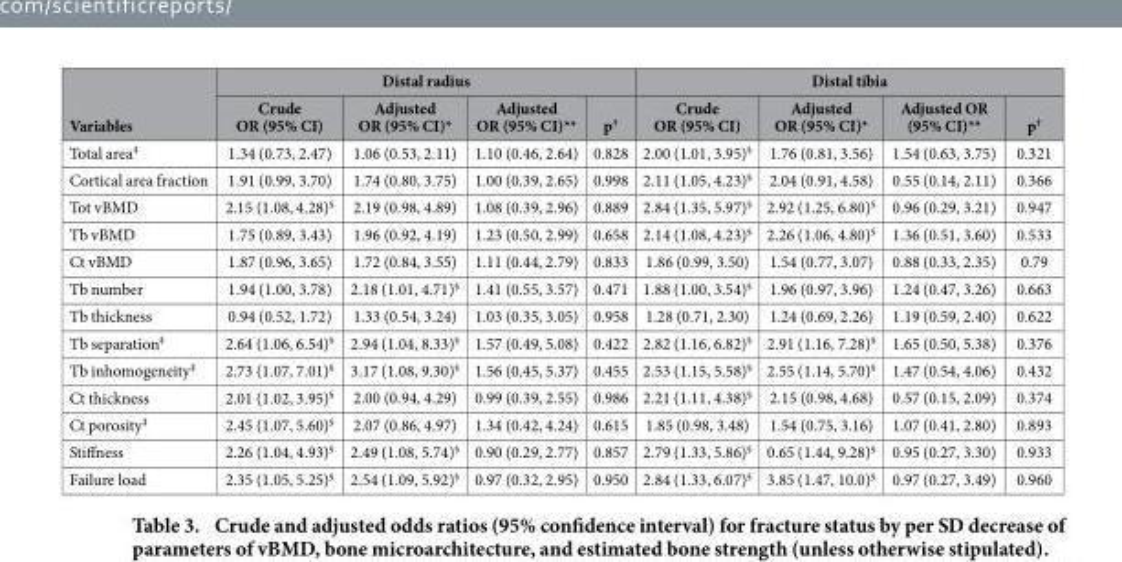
<table><thead><tr><td rowspan="2">Variables</td><td colspan="4">Distal radius</td><td colspan="4">Distal tibia</td></tr><tr><td>Crude OR (95% CI)</td><td>Adjusted OR (95% CI)*</td><td>Adjusted OR (95% CI)**</td><td>p†</td><td>Crude OR (95% CI)</td><td>Adjusted OR (95% CI)*</td><td>Adjusted OR (95% CI)**</td><td>p†</td></tr></thead><tbody><tr><td>Total area‡</td><td>1.34 (0.73, 2.47)</td><td>1.06 (0.53, 2.11)</td><td>1.10 (0.46, 2.64)</td><td>0.828</td><td>2.00 (1.01, 3.95)<sup>§</sup></td><td>1.76 (0.81, 3.56)</td><td>1.54 (0.63, 3.75)</td><td>0.321</td></tr><tr><td>Cortical area fraction</td><td>1.91 (0.99, 3.70)</td><td>1.74 (0.80, 3.75)</td><td>1.00 (0.39, 2.65)</td><td>0.998</td><td>2.11 (1.05, 4.23)<sup>§</sup></td><td>2.04 (0.91, 4.58)</td><td>0.55 (0.14, 2.11)</td><td>0.366</td></tr><tr><td>Tot vBMD</td><td>2.15 (1.08, 4.28)<sup>§</sup></td><td>2.19 (0.98, 4.89)</td><td>1.08 (0.39, 2.96)</td><td>0.889</td><td>2.84 (1.35, 5.97)<sup>§</sup></td><td>2.92 (1.25, 6.80)<sup>§</sup></td><td>0.96 (0.29, 3.21)</td><td>0.947</td></tr><tr><td>Tb vBMD</td><td>1.75 (0.89, 3.43)</td><td>1.96 (0.92, 4.19)</td><td>1.23 (0.50, 2.99)</td><td>0.658</td><td>2.14 (1.08, 4.23)<sup>§</sup></td><td>2.26 (1.06, 4.80)<sup>§</sup></td><td>1.36 (0.51, 3.60)</td><td>0.533</td></tr><tr><td>Ct vBMD</td><td>1.87 (0.96, 3.65)</td><td>1.72 (0.84, 3.55)</td><td>1.11 (0.44, 2.79)</td><td>0.833</td><td>1.86 (0.99, 3.50)</td><td>1.54 (0.77, 3.07)</td><td>0.88 (0.33, 2.35)</td><td>0.79</td></tr><tr><td>Tb number</td><td>1.94 (1.00, 3.78)</td><td>2.18 (1.01, 4.71)<sup>§</sup></td><td>1.41 (0.55, 3.57)</td><td>0.471</td><td>1.88 (1.00, 3.54)<sup>§</sup></td><td>1.96 (0.97, 3.96)</td><td>1.24 (0.47, 3.26)</td><td>0.663</td></tr><tr><td>Tb thickness</td><td>0.94 (0.52, 1.72)</td><td>1.33 (0.54, 3.24)</td><td>1.03 (0.35, 3.05)</td><td>0.958</td><td>1.28 (0.71, 2.30)</td><td>1.24 (0.69, 2.26)</td><td>1.19 (0.59, 2.40)</td><td>0.622</td></tr><tr><td>Tb separation‡</td><td>2.64 (1.06, 6.54)<sup>§</sup></td><td>2.94 (1.04, 8.33)<sup>§</sup></td><td>1.57 (0.49, 5.08)</td><td>0.422</td><td>2.82 (1.16, 6.82)<sup>§</sup></td><td>2.91 (1.16, 7.28)<sup>§</sup></td><td>1.65 (0.50, 5.38)</td><td>0.376</td></tr><tr><td>Tb inhomogeneity‡</td><td>2.73 (1.07, 7.01)<sup>§</sup></td><td>3.17 (1.08, 9.30)<sup>§</sup></td><td>1.56 (0.45, 5.37)</td><td>0.455</td><td>2.53 (1.15, 5.58)<sup>§</sup></td><td>2.55 (1.14, 5.70)<sup>§</sup></td><td>1.47 (0.54, 4.06)</td><td>0.432</td></tr><tr><td>Ct thickness</td><td>2.01 (1.02, 3.95)<sup>§</sup></td><td>2.00 (0.94, 4.29)</td><td>0.99 (0.39, 2.55)</td><td>0.986</td><td>2.21 (1.11, 4.38)<sup>§</sup></td><td>2.15 (0.98, 4.68)</td><td>0.57 (0.15, 2.09)</td><td>0.374</td></tr><tr><td>Ct porosity‡</td><td>2.45 (1.07, 5.60)<sup>§</sup></td><td>2.07 (0.86, 4.97)</td><td>1.34 (0.42, 4.24)</td><td>0.615</td><td>1.85 (0.98, 3.48)</td><td>1.54 (0.75, 3.16)</td><td>1.07 (0.41, 2.80)</td><td>0.893</td></tr><tr><td>Stiffness</td><td>2.26 (1.04, 4.93)<sup>§</sup></td><td>2.49 (1.08, 5.74)<sup>§</sup></td><td>0.90 (0.29, 2.77)</td><td>0.857</td><td>2.79 (1.33, 5.86)<sup>§</sup></td><td>0.65 (1.44, 9.28)<sup>§</sup></td><td>0.95 (0.27, 3.30)</td><td>0.933</td></tr><tr><td>Failure load</td><td>2.35 (1.05, 5.25)<sup>§</sup></td><td>2.54 (1.09, 5.92)<sup>§</sup></td><td>0.97 (0.32, 2.95)</td><td>0.950</td><td>2.84 (1.33, 6.07)<sup>§</sup></td><td>3.85 (1.47, 10.0)<sup>§</sup></td><td>0.97 (0.27, 3.49)</td><td>0.960</td></tr></tbody></table>